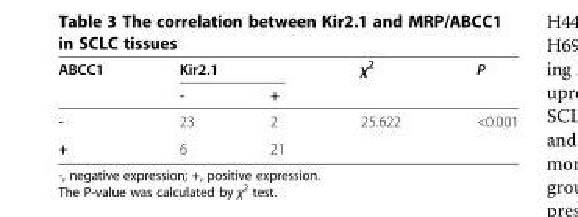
<table><thead><tr><td rowspan="2">ABCC1</td><td colspan="2">Kir2.1</td><td rowspan="2">χ<sup>2</sup></td><td rowspan="2">P</td></tr><tr><td>-</td><td>+</td></tr></thead><tbody><tr><td>-</td><td>23</td><td>2</td><td>25.622</td><td>&lt;0.001</td></tr><tr><td>+</td><td>6</td><td>21</td><td></td><td></td></tr></tbody></table>